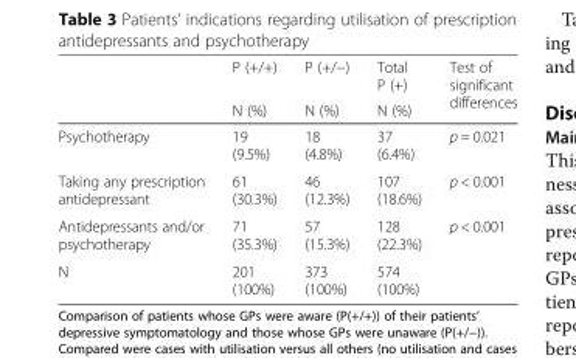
<table><thead><tr><td rowspan="2"></td><td rowspan="2">P (+/+) N (%)</td><td rowspan="2">P (+/−) N (%)</td><td rowspan="2">Total P (+) N (%)</td><td rowspan="2">Test of significant differences</td></tr><tr></tr></thead><tbody><tr><td>Psychotherapy</td><td>19 (9.5%)</td><td>18 (4.8%)</td><td>37 (6.4%)</td><td>p = 0.021</td></tr><tr><td>Taking any prescription antidepressant</td><td>61 (30.3%)</td><td>46 (12.3%)</td><td>107 (18.6%)</td><td>p &lt; 0.001</td></tr><tr><td>Antidepressants and/or psychotherapy</td><td>71 (35.3%)</td><td>57 (15.3%)</td><td>128 (22.3%)</td><td>p &lt; 0.001</td></tr><tr><td>N</td><td>201 (100%)</td><td>373 (100%)</td><td>574 (100%)</td><td></td></tr></tbody></table>